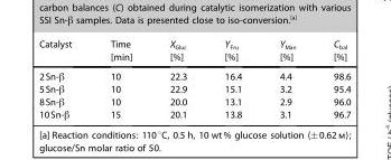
<table><thead><tr><td>Catalyst</td><td>Time [min]</td><td>X<sub>Gluc</sub> [%]</td><td>Y<sub>Fru</sub> [%]</td><td>Y<sub>Man</sub> [%]</td><td>C<sub>bal</sub> [%]</td></tr></thead><tbody><tr><td>2Sn-β</td><td>10</td><td>22.3</td><td>16.4</td><td>4.4</td><td>98.6</td></tr><tr><td>5Sn-β</td><td>10</td><td>22.9</td><td>15.1</td><td>3.2</td><td>95.4</td></tr><tr><td>8Sn-β</td><td>10</td><td>20.0</td><td>13.1</td><td>2.9</td><td>96.0</td></tr><tr><td>10Sn-β</td><td>15</td><td>20.1</td><td>13.8</td><td>3.1</td><td>96.7</td></tr></tbody></table>